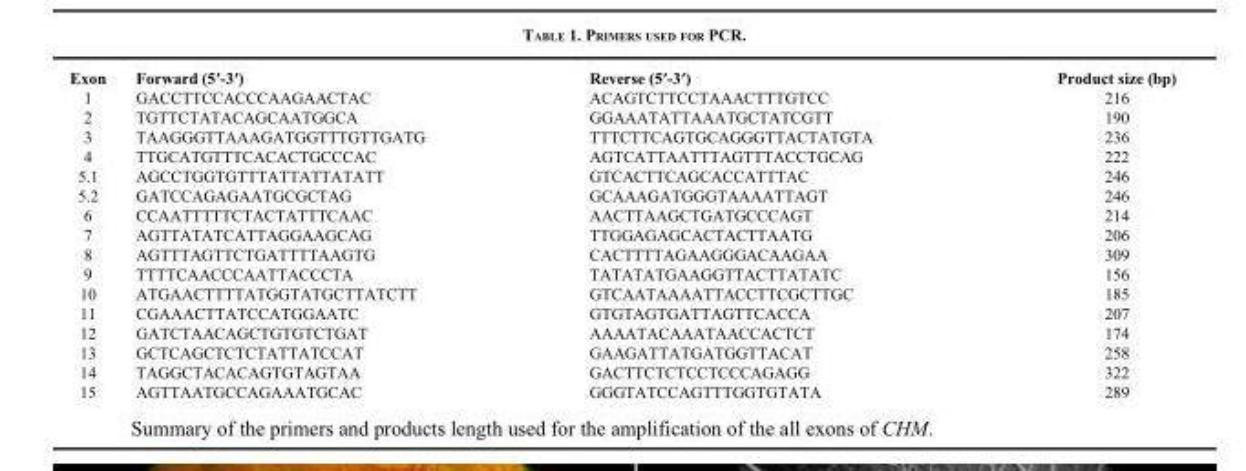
<table><thead><tr><td>Exon</td><td>Forward (5′-3′)</td><td>Reverse (5′-3′)</td><td>Product size (bp)</td></tr></thead><tbody><tr><td>1</td><td>GACCTTCCACCCAAGAACTAC</td><td>ACAGTCTTCCTAAACTTTGTCC</td><td>216</td></tr><tr><td>2</td><td>TGTTCTATACAGCAATGGCA</td><td>GGAAATATTAAATGCTATCGTT</td><td>190</td></tr><tr><td>3</td><td>TAAGGGTTAAAGATGGTTTGTTGATG</td><td>TTTCTTCAGTGCAGGGTTACTATGTA</td><td>236</td></tr><tr><td>4</td><td>TTGCATGTTTCACACTGCCCAC</td><td>AGTCATTAATTTAGTTTACCTGCAG</td><td>222</td></tr><tr><td>5.1</td><td>AGCCTGGTGTTTATTATTATATT</td><td>GTCACTTCAGCACCATTTAC</td><td>246</td></tr><tr><td>5.2</td><td>GATCCAGAGAATGCGCTAG</td><td>GCAAAGATGGGTAAAATTAGT</td><td>246</td></tr><tr><td>6</td><td>CCAATTTTTCTACTATTTCAAC</td><td>AACTTAAGCTGATGCCCAGT</td><td>214</td></tr><tr><td>7</td><td>AGTTATATCATTAGGAAGCAG</td><td>TTGGAGAGCACTACTTAATG</td><td>206</td></tr><tr><td>8</td><td>AGTTTAGTTCTGATTTTAAGTG</td><td>CACTTTTAGAAGGGACAAGAA</td><td>309</td></tr><tr><td>9</td><td>TTTTCAACCCAATTACCCTA</td><td>TATATATGAAGGTTACTTATATC</td><td>156</td></tr><tr><td>10</td><td>ATGAACTTTTATGGTATGCTTATCTT</td><td>GTCAATAAAATTACCTTCGCTTGC</td><td>185</td></tr><tr><td>11</td><td>CGAAACTTATCCATGGAATC</td><td>GTGTAGTGATTAGTTCACCA</td><td>207</td></tr><tr><td>12</td><td>GATCTAACAGCTGTGTCTGAT</td><td>AAAATACAAATAACCACTCT</td><td>174</td></tr><tr><td>13</td><td>GCTCAGCTCTCTATTATCCAT</td><td>GAAGATTATGATGGTTACAT</td><td>258</td></tr><tr><td>14</td><td>TAGGCTACACAGTGTAGTAA</td><td>GACTTCTCTCCTCCCAGAGG</td><td>322</td></tr><tr><td>15</td><td>AGTTAATGCCAGAAATGCAC</td><td>GGGTATCCAGTTTGGTGTATA</td><td>289</td></tr></tbody></table>